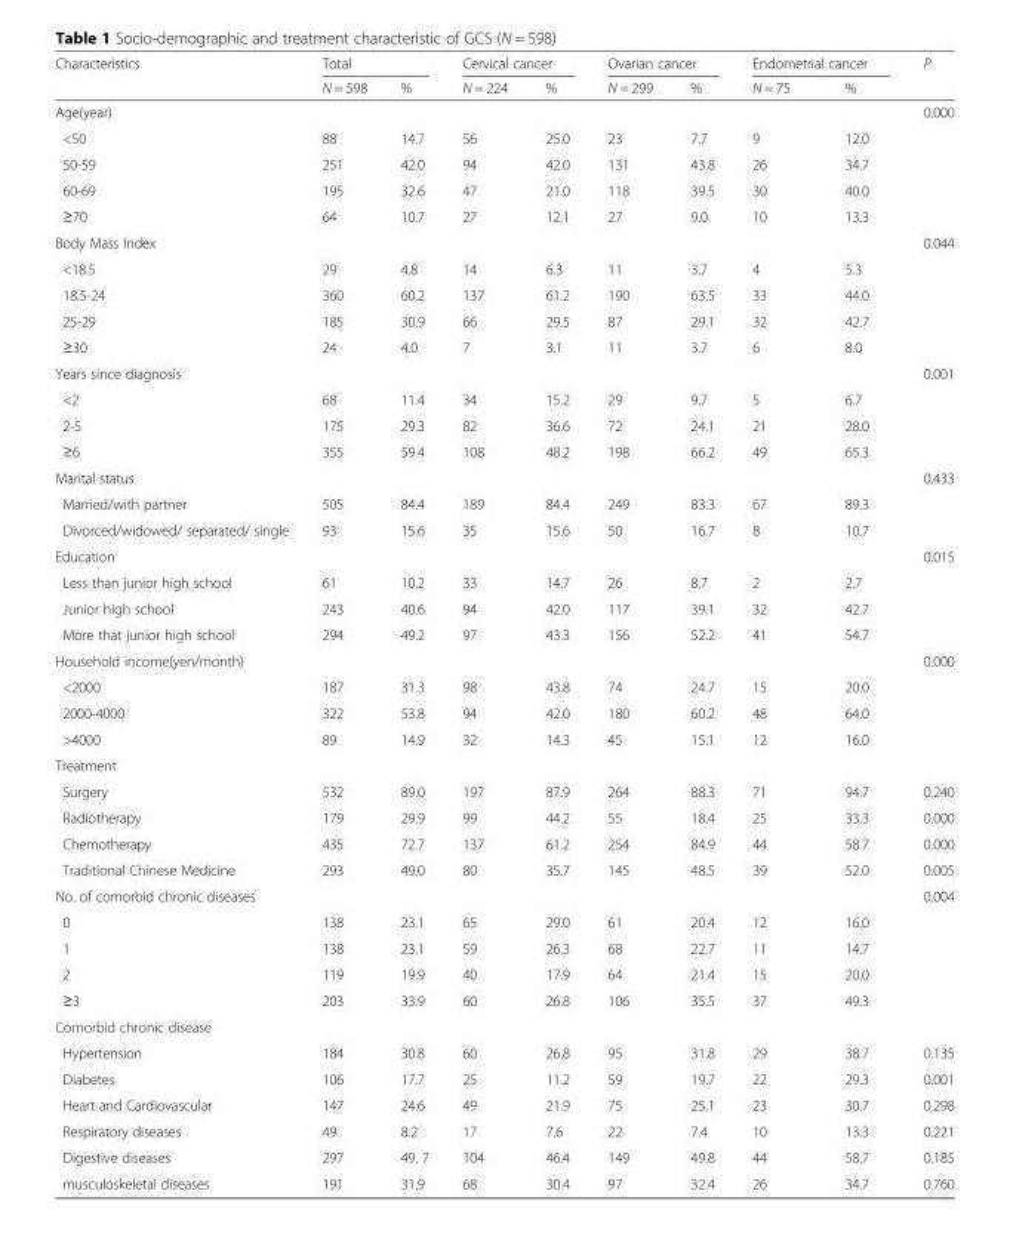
<table><thead><tr><td rowspan="2">Characteristics</td><td colspan="2">Total</td><td colspan="2">Cervical cancer</td><td colspan="2">Ovarian cancer</td><td colspan="2">Endometrial cancer</td><td rowspan="2">P</td></tr><tr><td>N = 598</td><td>%</td><td>N = 224</td><td>%</td><td>N = 299</td><td>%</td><td>N = 75</td><td>%</td></tr></thead><tbody><tr><td>Age(year)</td><td></td><td></td><td></td><td></td><td></td><td></td><td></td><td></td><td>0.000</td></tr><tr><td>&lt;50</td><td>88</td><td>14.7</td><td>56</td><td>25.0</td><td>23</td><td>7.7</td><td>9</td><td>12.0</td><td></td></tr><tr><td>50-59</td><td>251</td><td>42.0</td><td>94</td><td>42.0</td><td>131</td><td>43.8</td><td>26</td><td>34.7</td><td></td></tr><tr><td>60-69</td><td>195</td><td>32.6</td><td>47</td><td>21.0</td><td>118</td><td>39.5</td><td>30</td><td>40.0</td><td></td></tr><tr><td>≥70</td><td>64</td><td>10.7</td><td>27</td><td>12.1</td><td>27</td><td>9.0</td><td>10</td><td>13.3</td><td></td></tr><tr><td>Body Mass Index</td><td></td><td></td><td></td><td></td><td></td><td></td><td></td><td></td><td>0.044</td></tr><tr><td>&lt;18.5</td><td>29</td><td>4.8</td><td>14</td><td>6.3</td><td>11</td><td>3.7</td><td>4</td><td>5.3</td><td></td></tr><tr><td>18.5-24</td><td>360</td><td>60.2</td><td>137</td><td>61.2</td><td>190</td><td>63.5</td><td>33</td><td>44.0</td><td></td></tr><tr><td>25-29</td><td>185</td><td>30.9</td><td>66</td><td>29.5</td><td>87</td><td>29.1</td><td>32</td><td>42.7</td><td></td></tr><tr><td>≥30</td><td>24</td><td>4.0</td><td>7</td><td>3.1</td><td>11</td><td>3.7</td><td>6</td><td>8.0</td><td></td></tr><tr><td>Years since diagnosis</td><td></td><td></td><td></td><td></td><td></td><td></td><td></td><td></td><td>0.001</td></tr><tr><td>&lt;2</td><td>68</td><td>11.4</td><td>34</td><td>15.2</td><td>29</td><td>9.7</td><td>5</td><td>6.7</td><td></td></tr><tr><td>2-5</td><td>175</td><td>29.3</td><td>82</td><td>36.6</td><td>72</td><td>24.1</td><td>21</td><td>28.0</td><td></td></tr><tr><td>≥6</td><td>355</td><td>59.4</td><td>108</td><td>48.2</td><td>198</td><td>66.2</td><td>49</td><td>65.3</td><td></td></tr><tr><td>Marital status</td><td></td><td></td><td></td><td></td><td></td><td></td><td></td><td></td><td>0.433</td></tr><tr><td>Married/with partner</td><td>505</td><td>84.4</td><td>189</td><td>84.4</td><td>249</td><td>83.3</td><td>67</td><td>89.3</td><td></td></tr><tr><td>Divorced/widowed/ separated/ single</td><td>93</td><td>15.6</td><td>35</td><td>15.6</td><td>50</td><td>16.7</td><td>8</td><td>10.7</td><td></td></tr><tr><td>Education</td><td></td><td></td><td></td><td></td><td></td><td></td><td></td><td></td><td>0.015</td></tr><tr><td>Less than junior high school</td><td>61</td><td>10.2</td><td>33</td><td>14.7</td><td>26</td><td>8.7</td><td>2</td><td>2.7</td><td></td></tr><tr><td>Junior high school</td><td>243</td><td>40.6</td><td>94</td><td>42.0</td><td>117</td><td>39.1</td><td>32</td><td>42.7</td><td></td></tr><tr><td>More that junior high school</td><td>294</td><td>49.2</td><td>97</td><td>43.3</td><td>156</td><td>52.2</td><td>41</td><td>54.7</td><td></td></tr><tr><td>Household income(yen/month)</td><td></td><td></td><td></td><td></td><td></td><td></td><td></td><td></td><td>0.000</td></tr><tr><td>&lt;2000</td><td>187</td><td>31.3</td><td>98</td><td>43.8</td><td>74</td><td>24.7</td><td>15</td><td>20.0</td><td></td></tr><tr><td>2000-4000</td><td>322</td><td>53.8</td><td>94</td><td>42.0</td><td>180</td><td>60.2</td><td>48</td><td>64.0</td><td></td></tr><tr><td>&gt;4000</td><td>89</td><td>14.9</td><td>32</td><td>14.3</td><td>45</td><td>15.1</td><td>12</td><td>16.0</td><td></td></tr><tr><td colspan="10">Treatment</td></tr><tr><td>Surgery</td><td>532</td><td>89.0</td><td>197</td><td>87.9</td><td>264</td><td>88.3</td><td>71</td><td>94.7</td><td>0.240</td></tr><tr><td>Radiotherapy</td><td>179</td><td>29.9</td><td>99</td><td>44.2</td><td>55</td><td>18.4</td><td>25</td><td>33.3</td><td>0.000</td></tr><tr><td>Chemotherapy</td><td>435</td><td>72.7</td><td>137</td><td>61.2</td><td>254</td><td>84.9</td><td>44</td><td>58.7</td><td>0.000</td></tr><tr><td>Traditional Chinese Medicine</td><td>293</td><td>49.0</td><td>80</td><td>35.7</td><td>145</td><td>48.5</td><td>39</td><td>52.0</td><td>0.005</td></tr><tr><td>No. of comorbid chronic diseases</td><td></td><td></td><td></td><td></td><td></td><td></td><td></td><td></td><td>0.004</td></tr><tr><td>0</td><td>138</td><td>23.1</td><td>65</td><td>29.0</td><td>61</td><td>20.4</td><td>12</td><td>16.0</td><td></td></tr><tr><td>1</td><td>138</td><td>23.1</td><td>59</td><td>26.3</td><td>68</td><td>22.7</td><td>11</td><td>14.7</td><td></td></tr><tr><td>2</td><td>119</td><td>19.9</td><td>40</td><td>17.9</td><td>64</td><td>21.4</td><td>15</td><td>20.0</td><td></td></tr><tr><td>≥3</td><td>203</td><td>33.9</td><td>60</td><td>26.8</td><td>106</td><td>35.5</td><td>37</td><td>49.3</td><td></td></tr><tr><td colspan="10">Comorbid chronic disease</td></tr><tr><td>Hypertension</td><td>184</td><td>30.8</td><td>60</td><td>26.8</td><td>95</td><td>31.8</td><td>29</td><td>38.7</td><td>0.135</td></tr><tr><td>Diabetes</td><td>106</td><td>17.7</td><td>25</td><td>11.2</td><td>59</td><td>19.7</td><td>22</td><td>29.3</td><td>0.001</td></tr><tr><td>Heart and Cardiovascular</td><td>147</td><td>24.6</td><td>49</td><td>21.9</td><td>75</td><td>25.1</td><td>23</td><td>30.7</td><td>0.298</td></tr><tr><td>Respiratory diseases</td><td>49</td><td>8.2</td><td>17</td><td>7.6</td><td>22</td><td>7.4</td><td>10</td><td>13.3</td><td>0.221</td></tr><tr><td>Digestive diseases</td><td>297</td><td>49. 7</td><td>104</td><td>46.4</td><td>149</td><td>49.8</td><td>44</td><td>58.7</td><td>0.185</td></tr><tr><td>musculoskeletal diseases</td><td>191</td><td>31.9</td><td>68</td><td>30.4</td><td>97</td><td>32.4</td><td>26</td><td>34.7</td><td>0.760</td></tr></tbody></table>